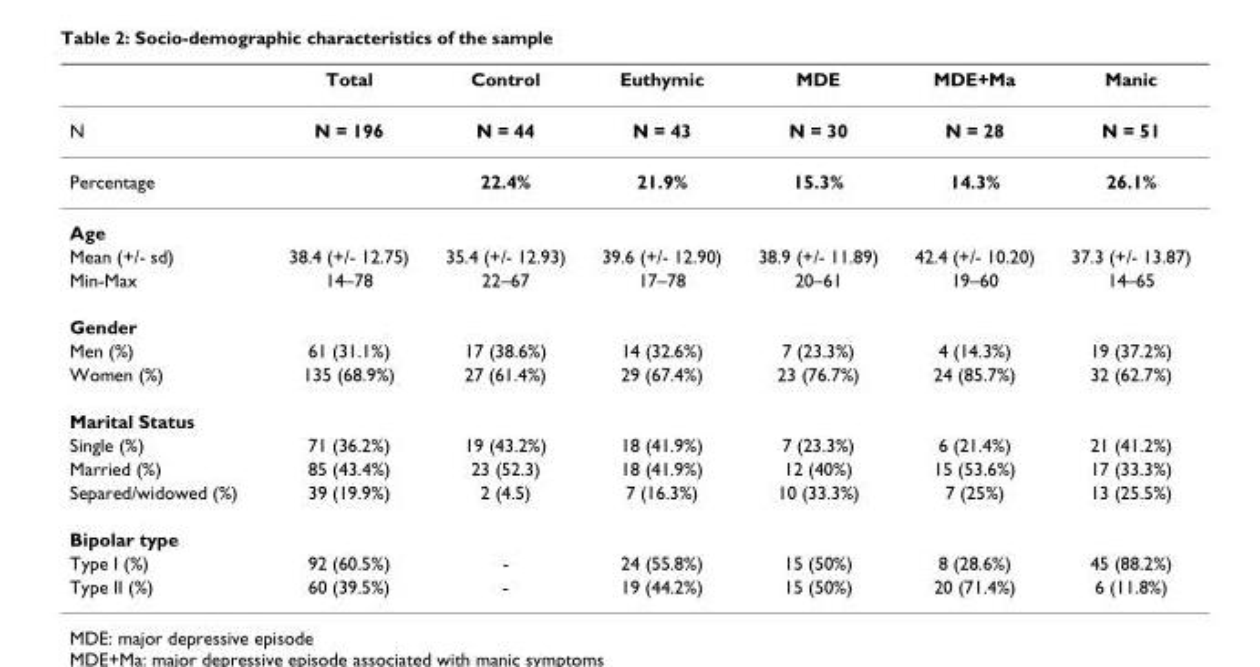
<table><thead><tr><td></td><td>Total</td><td>Control</td><td>Euthymic</td><td>MDE</td><td>MDE+Ma</td><td>Manic</td></tr></thead><tbody><tr><td>N</td><td>N = 196</td><td>N = 44</td><td>N = 43</td><td>N = 30</td><td>N = 28</td><td>N = 51</td></tr><tr><td>Percentage</td><td></td><td>22.4%</td><td>21.9%</td><td>15.3%</td><td>14.3%</td><td>26.1%</td></tr><tr><td colspan="7">Age</td></tr><tr><td>Mean (+/- sd)</td><td>38.4 (+/- 12.75)</td><td>35.4 (+/- 12.93)</td><td>39.6 (+/- 12.90)</td><td>38.9 (+/- 11.89)</td><td>42.4 (+/- 10.20)</td><td>37.3 (+/- 13.87)</td></tr><tr><td>Min-Max</td><td>14–78</td><td>22–67</td><td>17–78</td><td>20–61</td><td>19–60</td><td>14–65</td></tr><tr><td colspan="7">Gender</td></tr><tr><td>Men (%)</td><td>61 (31.1%)</td><td>17 (38.6%)</td><td>14 (32.6%)</td><td>7 (23.3%)</td><td>4 (14.3%)</td><td>19 (37.2%)</td></tr><tr><td>Women (%)</td><td>135 (68.9%)</td><td>27 (61.4%)</td><td>29 (67.4%)</td><td>23 (76.7%)</td><td>24 (85.7%)</td><td>32 (62.7%)</td></tr><tr><td colspan="7">Marital Status</td></tr><tr><td>Single (%)</td><td>71 (36.2%)</td><td>19 (43.2%)</td><td>18 (41.9%)</td><td>7 (23.3%)</td><td>6 (21.4%)</td><td>21 (41.2%)</td></tr><tr><td>Married (%)</td><td>85 (43.4%)</td><td>23 (52.3)</td><td>18 (41.9%)</td><td>12 (40%)</td><td>15 (53.6%)</td><td>17 (33.3%)</td></tr><tr><td>Separed/widowed (%)</td><td>39 (19.9%)</td><td>2 (4.5)</td><td>7 (16.3%)</td><td>10 (33.3%)</td><td>7 (25%)</td><td>13 (25.5%)</td></tr><tr><td colspan="7">Bipolar type</td></tr><tr><td>Type I (%)</td><td>92 (60.5%)</td><td>-</td><td>24 (55.8%)</td><td>15 (50%)</td><td>8 (28.6%)</td><td>45 (88.2%)</td></tr><tr><td>Type II (%)</td><td>60 (39.5%)</td><td>-</td><td>19 (44.2%)</td><td>15 (50%)</td><td>20 (71.4%)</td><td>6 (11.8%)</td></tr></tbody></table>